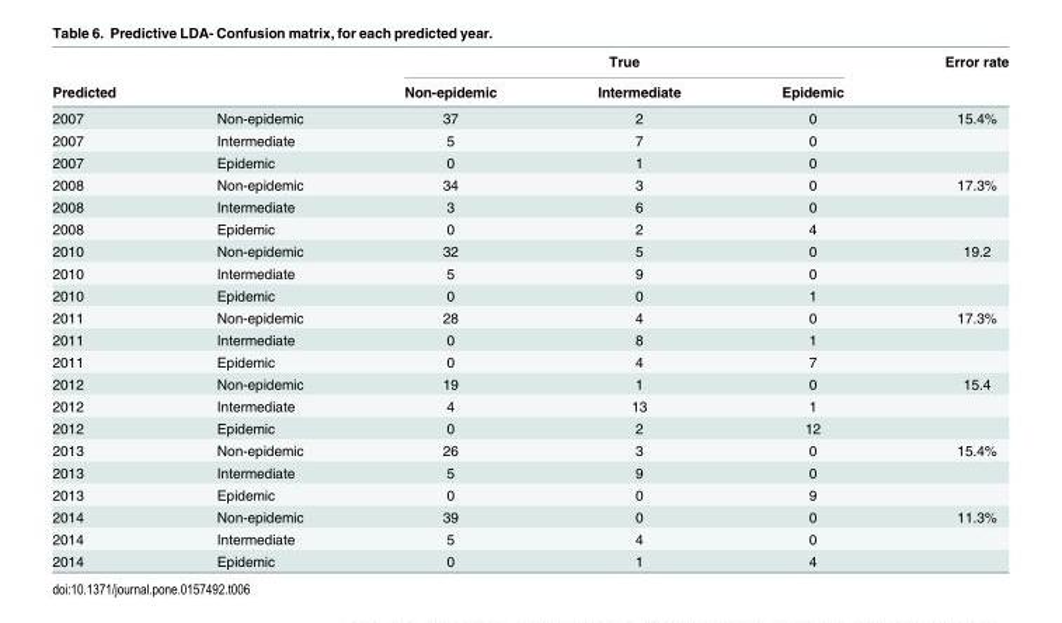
<table><thead><tr><td rowspan="2">Predicted</td><td rowspan="2"></td><td colspan="3">True</td><td rowspan="2">Error rate</td></tr><tr><td>Non-epidemic</td><td>Intermediate</td><td>Epidemic</td></tr></thead><tbody><tr><td>2007</td><td>Non-epidemic</td><td>37</td><td>2</td><td>0</td><td>15.4%</td></tr><tr><td>2007</td><td>Intermediate</td><td>5</td><td>7</td><td>0</td><td></td></tr><tr><td>2007</td><td>Epidemic</td><td>0</td><td>1</td><td>0</td><td></td></tr><tr><td>2008</td><td>Non-epidemic</td><td>34</td><td>3</td><td>0</td><td>17.3%</td></tr><tr><td>2008</td><td>Intermediate</td><td>3</td><td>6</td><td>0</td><td></td></tr><tr><td>2008</td><td>Epidemic</td><td>0</td><td>2</td><td>4</td><td></td></tr><tr><td>2010</td><td>Non-epidemic</td><td>32</td><td>5</td><td>0</td><td>19.2</td></tr><tr><td>2010</td><td>Intermediate</td><td>5</td><td>9</td><td>0</td><td></td></tr><tr><td>2010</td><td>Epidemic</td><td>0</td><td>0</td><td>1</td><td></td></tr><tr><td>2011</td><td>Non-epidemic</td><td>28</td><td>4</td><td>0</td><td>17.3%</td></tr><tr><td>2011</td><td>Intermediate</td><td>0</td><td>8</td><td>1</td><td></td></tr><tr><td>2011</td><td>Epidemic</td><td>0</td><td>4</td><td>7</td><td></td></tr><tr><td>2012</td><td>Non-epidemic</td><td>19</td><td>1</td><td>0</td><td>15.4</td></tr><tr><td>2012</td><td>Intermediate</td><td>4</td><td>13</td><td>1</td><td></td></tr><tr><td>2012</td><td>Epidemic</td><td>0</td><td>2</td><td>12</td><td></td></tr><tr><td>2013</td><td>Non-epidemic</td><td>26</td><td>3</td><td>0</td><td>15.4%</td></tr><tr><td>2013</td><td>Intermediate</td><td>5</td><td>9</td><td>0</td><td></td></tr><tr><td>2013</td><td>Epidemic</td><td>0</td><td>0</td><td>9</td><td></td></tr><tr><td>2014</td><td>Non-epidemic</td><td>39</td><td>0</td><td>0</td><td>11.3%</td></tr><tr><td>2014</td><td>Intermediate</td><td>5</td><td>4</td><td>0</td><td></td></tr><tr><td>2014</td><td>Epidemic</td><td>0</td><td>1</td><td>4</td><td></td></tr></tbody></table>